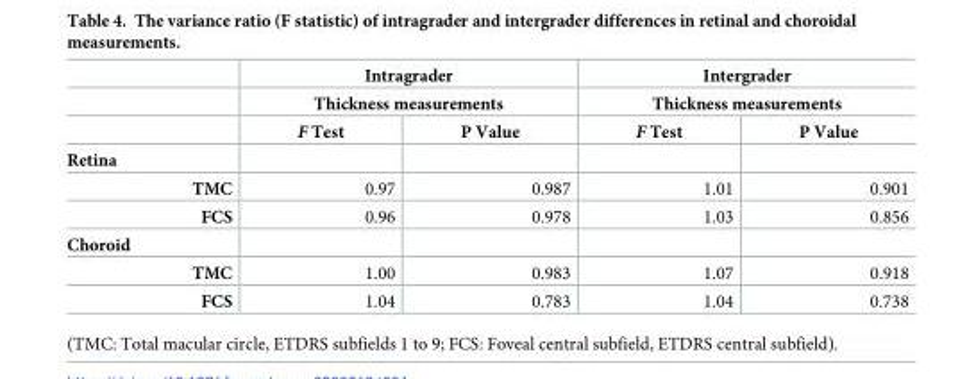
<table><thead><tr><td rowspan="3"></td><td rowspan="2" colspan="2">Intragrader Thickness measurements</td><td rowspan="2" colspan="2">Intergrader Thickness measurements</td></tr><tr></tr><tr><td>F Test</td><td>P Value</td><td>F Test</td><td>P Value</td></tr></thead><tbody><tr><td colspan="5">Retina</td></tr><tr><td>TMC</td><td>0.97</td><td>0.987</td><td>1.01</td><td>0.901</td></tr><tr><td>FCS</td><td>0.96</td><td>0.978</td><td>1.03</td><td>0.856</td></tr><tr><td colspan="5">Choroid</td></tr><tr><td>TMC</td><td>1.00</td><td>0.983</td><td>1.07</td><td>0.918</td></tr><tr><td>FCS</td><td>1.04</td><td>0.783</td><td>1.04</td><td>0.738</td></tr></tbody></table>